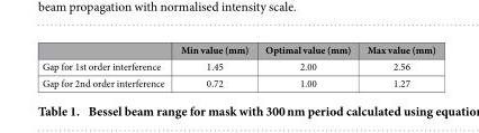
<table><thead><tr><td></td><td>Min value (mm)</td><td>Optimal value (mm)</td><td>Max value (mm)</td></tr></thead><tbody><tr><td>Gap for 1st order interference</td><td>1.45</td><td>2.00</td><td>2.56</td></tr><tr><td>Gap for 2nd order interference</td><td>0.72</td><td>1.00</td><td>1.27</td></tr></tbody></table>